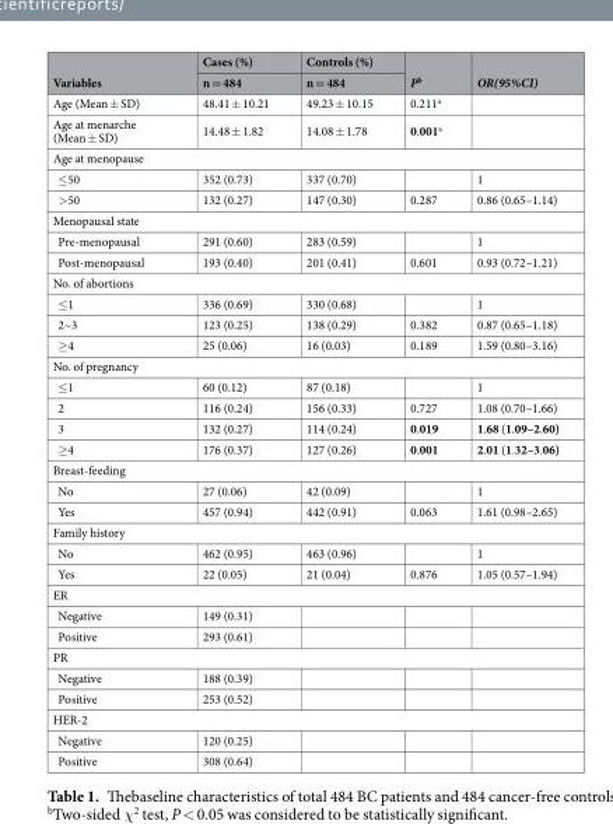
<table><thead><tr><td rowspan="2">Variables</td><td rowspan="2">Cases (%) n = 484</td><td rowspan="2">Controls (%) n = 484</td><td rowspan="2">P<sup>b</sup></td><td rowspan="2">OR(95%CI)</td></tr><tr></tr></thead><tbody><tr><td>Age (Mean ± SD)</td><td>48.41 ± 10.21</td><td>49.23 ± 10.15</td><td>0.211<sup>a</sup></td><td></td></tr><tr><td>Age at menarche (Mean ± SD)</td><td>14.48 ± 1.82</td><td>14.08 ± 1.78</td><td>0.001<sup>a</sup></td><td></td></tr><tr><td colspan="5">Age at menopause</td></tr><tr><td>≤50</td><td>352 (0.73)</td><td>337 (0.70)</td><td></td><td>1</td></tr><tr><td>&gt;50</td><td>132 (0.27)</td><td>147 (0.30)</td><td>0.287</td><td>0.86 (0.65–1.14)</td></tr><tr><td colspan="5">Menopausal state</td></tr><tr><td>Pre-menopausal</td><td>291 (0.60)</td><td>283 (0.59)</td><td></td><td>1</td></tr><tr><td>Post-menopausal</td><td>193 (0.40)</td><td>201 (0.41)</td><td>0.601</td><td>0.93 (0.72–1.21)</td></tr><tr><td colspan="5">No. of abortions</td></tr><tr><td>≤1</td><td>336 (0.69)</td><td>330 (0.68)</td><td></td><td>1</td></tr><tr><td>2~3</td><td>123 (0.25)</td><td>138 (0.29)</td><td>0.382</td><td>0.87 (0.65–1.18)</td></tr><tr><td>≥4</td><td>25 (0.06)</td><td>16 (0.03)</td><td>0.189</td><td>1.59 (0.80–3.16)</td></tr><tr><td colspan="5">No. of pregnancy</td></tr><tr><td>≤1</td><td>60 (0.12)</td><td>87 (0.18)</td><td></td><td>1</td></tr><tr><td>2</td><td>116 (0.24)</td><td>156 (0.33)</td><td>0.727</td><td>1.08 (0.70–1.66)</td></tr><tr><td>3</td><td>132 (0.27)</td><td>114 (0.24)</td><td>0.019</td><td>1.68 (1.09–2.60)</td></tr><tr><td>≥4</td><td>176 (0.37)</td><td>127 (0.26)</td><td>0.001</td><td>2.01 (1.32–3.06)</td></tr><tr><td colspan="5">Breast-feeding</td></tr><tr><td>No</td><td>27 (0.06)</td><td>42 (0.09)</td><td></td><td>1</td></tr><tr><td>Yes</td><td>457 (0.94)</td><td>442 (0.91)</td><td>0.063</td><td>1.61 (0.98–2.65)</td></tr><tr><td colspan="5">Family history</td></tr><tr><td>No</td><td>462 (0.95)</td><td>463 (0.96)</td><td></td><td>1</td></tr><tr><td>Yes</td><td>22 (0.05)</td><td>21 (0.04)</td><td>0.876</td><td>1.05 (0.57–1.94)</td></tr><tr><td colspan="5">ER</td></tr><tr><td>Negative</td><td>149 (0.31)</td><td></td><td></td><td></td></tr><tr><td>Positive</td><td>293 (0.61)</td><td></td><td></td><td></td></tr><tr><td colspan="5">PR</td></tr><tr><td>Negative</td><td>188 (0.39)</td><td></td><td></td><td></td></tr><tr><td>Positive</td><td>253 (0.52)</td><td></td><td></td><td></td></tr><tr><td colspan="5">HER-2</td></tr><tr><td>Negative</td><td>120 (0.25)</td><td></td><td></td><td></td></tr><tr><td>Positive</td><td>308 (0.64)</td><td></td><td></td><td></td></tr></tbody></table>